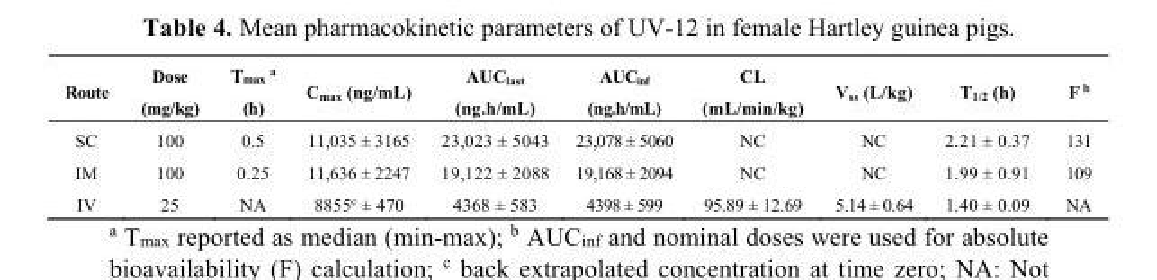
<table><thead><tr><td>Route</td><td>Dose (mg/kg)</td><td>T<sub>max</sub> <sup>a</sup> (h)</td><td>C<sub>max</sub> (ng/mL)</td><td>AUC<sub>last</sub> (ng.h/mL)</td><td>AUC<sub>inf</sub> (ng.h/mL)</td><td>CL (mL/min/kg)</td><td>V<sub>ss</sub> (L/kg)</td><td>T<sub>1/2</sub> (h)</td><td>F <sup>b</sup></td></tr></thead><tbody><tr><td>SC</td><td>100</td><td>0.5</td><td>11,035 ± 3165</td><td>23,023 ± 5043</td><td>23,078 ± 5060</td><td>NC</td><td>NC</td><td>2.21 ± 0.37</td><td>131</td></tr><tr><td>IM</td><td>100</td><td>0.25</td><td>11,636 ± 2247</td><td>19,122 ± 2088</td><td>19,168 ± 2094</td><td>NC</td><td>NC</td><td>1.99 ± 0.91</td><td>109</td></tr><tr><td>IV</td><td>25</td><td>NA</td><td>8855<sup>c</sup> ± 470</td><td>4368 ± 583</td><td>4398 ± 599</td><td>95.89 ± 12.69</td><td>5.14 ± 0.64</td><td>1.40 ± 0.09</td><td>NA</td></tr></tbody></table>